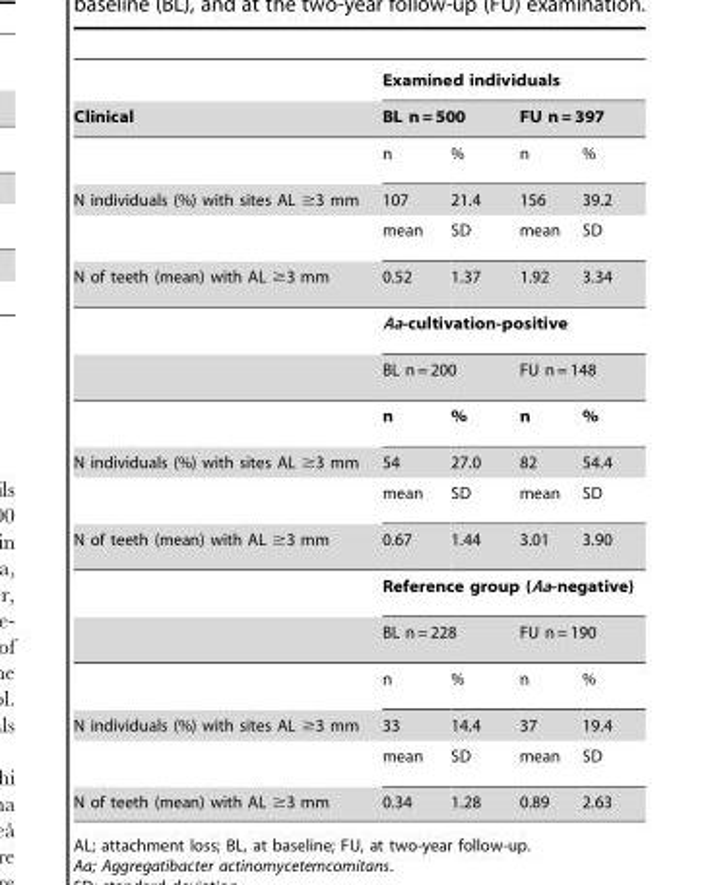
<table><thead><tr><td rowspan="3">Clinical</td><td colspan="4">Examined individuals</td></tr><tr><td colspan="2">BL n = 500</td><td colspan="2">FU n = 397</td></tr><tr><td>n</td><td>%</td><td>n</td><td>%</td></tr></thead><tbody><tr><td rowspan="2">N individuals (%) with sites AL ≥3 mm</td><td>107</td><td>21.4</td><td>156</td><td>39.2</td></tr><tr><td>mean</td><td>SD</td><td>mean</td><td>SD</td></tr><tr><td rowspan="4">N of teeth (mean) with AL ≥3 mm</td><td>0.52</td><td>1.37</td><td>1.92</td><td>3.34</td></tr><tr><td colspan="4">Aa-cultivation-positive</td></tr><tr><td colspan="2">BL n = 200</td><td colspan="2">FU n = 148</td></tr><tr><td>n</td><td>%</td><td>n</td><td>%</td></tr><tr><td rowspan="2">N individuals (%) with sites AL ≥3 mm</td><td>54</td><td>27.0</td><td>82</td><td>54.4</td></tr><tr><td>mean</td><td>SD</td><td>mean</td><td>SD</td></tr><tr><td rowspan="4">N of teeth (mean) with AL ≥3 mm</td><td>0.67</td><td>1.44</td><td>3.01</td><td>3.90</td></tr><tr><td colspan="4">Reference group (Aa-negative)</td></tr><tr><td colspan="2">BL n = 228</td><td colspan="2">FU n = 190</td></tr><tr><td>n</td><td>%</td><td>n</td><td>%</td></tr><tr><td rowspan="2">N individuals (%) with sites AL ≥3 mm</td><td>33</td><td>14.4</td><td>37</td><td>19.4</td></tr><tr><td>mean</td><td>SD</td><td>mean</td><td>SD</td></tr><tr><td>N of teeth (mean) with AL ≥3 mm</td><td>0.34</td><td>1.28</td><td>0.89</td><td>2.63</td></tr></tbody></table>